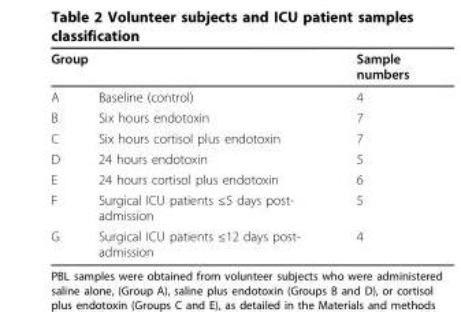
<table><thead><tr><td>Group</td><td></td><td>Sample numbers</td></tr></thead><tbody><tr><td>A</td><td>Baseline (control)</td><td>4</td></tr><tr><td>B</td><td>Six hours endotoxin</td><td>7</td></tr><tr><td>C</td><td>Six hours cortisol plus endotoxin</td><td>7</td></tr><tr><td>D</td><td>24 hours endotoxin</td><td>5</td></tr><tr><td>E</td><td>24 hours cortisol plus endotoxin</td><td>6</td></tr><tr><td>F</td><td>Surgical ICU patients ≤5 days post- admission</td><td>5</td></tr><tr><td>G</td><td>Surgical ICU patients ≤12 days post- admission</td><td>4</td></tr></tbody></table>